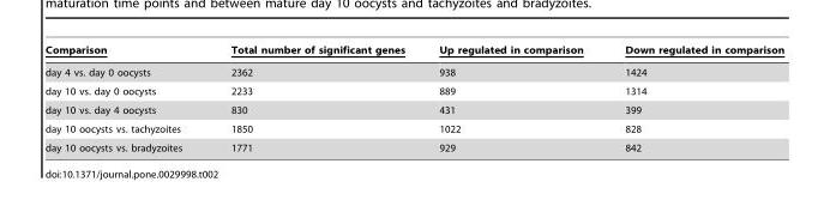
<table><thead><tr><td>Comparison</td><td>Total number of significant genes</td><td>Up regulated in comparison</td><td>Down regulated in comparison</td></tr></thead><tbody><tr><td>day 4 vs. day 0 oocysts</td><td>2362</td><td>938</td><td>1424</td></tr><tr><td>day 10 vs. day 0 oocysts</td><td>2233</td><td>889</td><td>1314</td></tr><tr><td>day 10 vs. day 4 oocysts</td><td>830</td><td>431</td><td>399</td></tr><tr><td>day 10 oocysts vs. tachyzoites</td><td>1850</td><td>1022</td><td>828</td></tr><tr><td>day 10 oocysts vs. bradyzoites</td><td>1771</td><td>929</td><td>842</td></tr></tbody></table>